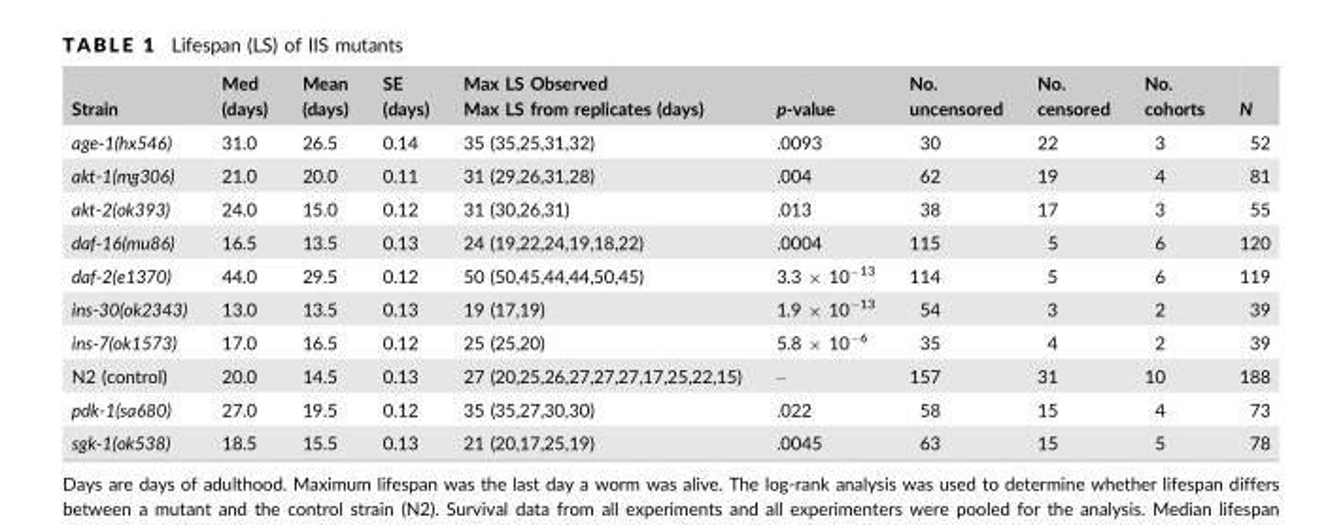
<table><thead><tr><td>Strain</td><td>Med (days)</td><td>Mean (days)</td><td>SE (days)</td><td>Max LS Observed Max LS from replicates (days)</td><td>p-value</td><td>No. uncensored</td><td>No. censored</td><td>No. cohorts</td><td>N</td></tr></thead><tbody><tr><td>age-1(hx546)</td><td>31.0</td><td>26.5</td><td>0.14</td><td>35 (35,25,31,32)</td><td>.0093</td><td>30</td><td>22</td><td>3</td><td>52</td></tr><tr><td>akt-1(mg306)</td><td>21.0</td><td>20.0</td><td>0.11</td><td>31 (29,26,31,28)</td><td>.004</td><td>62</td><td>19</td><td>4</td><td>81</td></tr><tr><td>akt-2(ok393)</td><td>24.0</td><td>15.0</td><td>0.12</td><td>31 (30,26,31)</td><td>.013</td><td>38</td><td>17</td><td>3</td><td>55</td></tr><tr><td>daf-16(mu86)</td><td>16.5</td><td>13.5</td><td>0.13</td><td>24 (19,22,24,19,18,22)</td><td>.0004</td><td>115</td><td>5</td><td>6</td><td>120</td></tr><tr><td>daf-2(e1370)</td><td>44.0</td><td>29.5</td><td>0.12</td><td>50 (50,45,44,44,50,45)</td><td>3.3 × 10<sup>−13</sup></td><td>114</td><td>5</td><td>6</td><td>119</td></tr><tr><td>ins-30(ok2343)</td><td>13.0</td><td>13.5</td><td>0.13</td><td>19 (17,19)</td><td>1.9 × 10<sup>−13</sup></td><td>54</td><td>3</td><td>2</td><td>39</td></tr><tr><td>ins-7(ok1573)</td><td>17.0</td><td>16.5</td><td>0.12</td><td>25 (25,20)</td><td>5.8 × 10<sup>−6</sup></td><td>35</td><td>4</td><td>2</td><td>39</td></tr><tr><td>N2 (control)</td><td>20.0</td><td>14.5</td><td>0.13</td><td>27 (20,25,26,27,27,27,17,25,22,15)</td><td>–</td><td>157</td><td>31</td><td>10</td><td>188</td></tr><tr><td>pdk-1(sa680)</td><td>27.0</td><td>19.5</td><td>0.12</td><td>35 (35,27,30,30)</td><td>.022</td><td>58</td><td>15</td><td>4</td><td>73</td></tr><tr><td>sgk-1(ok538)</td><td>18.5</td><td>15.5</td><td>0.13</td><td>21 (20,17,25,19)</td><td>.0045</td><td>63</td><td>15</td><td>5</td><td>78</td></tr></tbody></table>